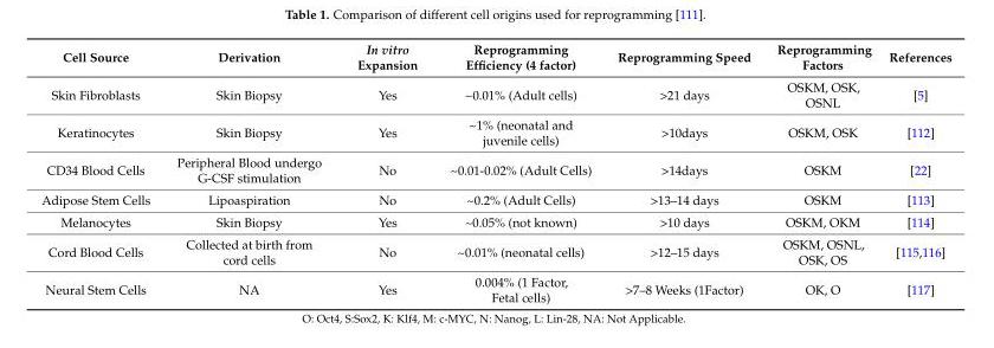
<table><thead><tr><td>Cell Source</td><td>Derivation</td><td>In vitro Expansion</td><td>Reprogramming Efficiency (4 factor)</td><td>Reprogramming Speed</td><td>Reprogramming Factors</td><td>References</td></tr></thead><tbody><tr><td>Skin Fibroblasts</td><td>Skin Biopsy</td><td>Yes</td><td>~0.01% (Adult cells)</td><td>&gt;21 days</td><td>OSKM, OSK, OSNL</td><td>[5]</td></tr><tr><td>Keratinocytes</td><td>Skin Biopsy</td><td>Yes</td><td>~1% (neonatal and juvenile cells)</td><td>&gt;10days</td><td>OSKM, OSK</td><td>[112]</td></tr><tr><td>CD34 Blood Cells</td><td>Peripheral Blood undergo G-CSF stimulation</td><td>No</td><td>~0.01-0.02% (Adult Cells)</td><td>&gt;14days</td><td>OSKM</td><td>[22]</td></tr><tr><td>Adipose Stem Cells</td><td>Lipoaspiration</td><td>No</td><td>~0.2% (Adult Cells)</td><td>&gt;13–14 days</td><td>OSKM</td><td>[113]</td></tr><tr><td>Melanocytes</td><td>Skin Biopsy</td><td>Yes</td><td>~0.05% (not known)</td><td>&gt;10 days</td><td>OSKM, OKM</td><td>[114]</td></tr><tr><td>Cord Blood Cells</td><td>Collected at birth from cord cells</td><td>No</td><td>~0.01% (neonatal cells)</td><td>&gt;12–15 days</td><td>OSKM, OSNL, OSK, OS</td><td>[115,116]</td></tr><tr><td>Neural Stem Cells</td><td>NA</td><td>Yes</td><td>0.004% (1 Factor, Fetal cells)</td><td>&gt;7–8 Weeks (1Factor)</td><td>OK, O</td><td>[117]</td></tr></tbody></table>